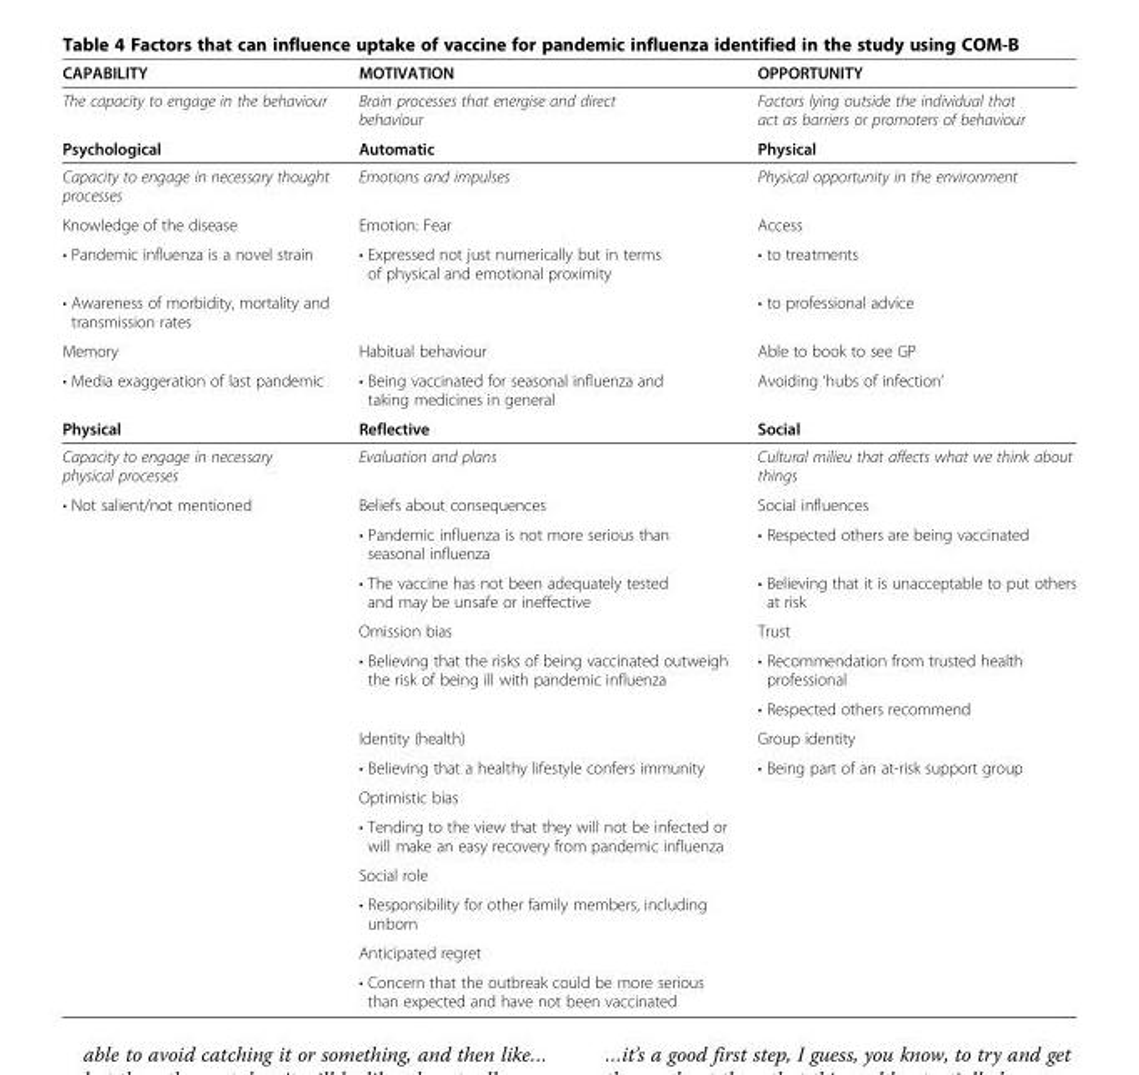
<table><thead><tr><td>CAPABILITY</td><td>MOTIVATION</td><td>OPPORTUNITY</td></tr></thead><tbody><tr><td>The capacity to engage in the behaviour</td><td>Brain processes that energise and direct behaviour</td><td>Factors lying outside the individual that act as barriers or promoters of behaviour</td></tr><tr><td>Psychological</td><td>Automatic</td><td>Physical</td></tr><tr><td>Capacity to engage in necessary thought processes</td><td>Emotions and impulses</td><td>Physical opportunity in the environment</td></tr><tr><td>Knowledge of the disease</td><td>Emotion: Fear</td><td>Access</td></tr><tr><td>• Pandemic influenza is a novel strain</td><td>• Expressed not just numerically but in terms of physical and emotional proximity</td><td>• to treatments</td></tr><tr><td>• Awareness of morbidity, mortality and transmission rates</td><td></td><td>• to professional advice</td></tr><tr><td>Memory</td><td>Habitual behaviour</td><td>Able to book to see GP</td></tr><tr><td>• Media exaggeration of last pandemic</td><td>• Being vaccinated for seasonal influenza and taking medicines in general</td><td>Avoiding ‘hubs of infection’</td></tr><tr><td>Physical</td><td>Reflective</td><td>Social</td></tr><tr><td>Capacity to engage in necessary physical processes</td><td>Evaluation and plans</td><td>Cultural milieu that affects what we think about things</td></tr><tr><td rowspan="14">• Not salient/not mentioned</td><td>Beliefs about consequences</td><td>Social influences</td></tr><tr><td>• Pandemic influenza is not more serious than seasonal influenza</td><td>• Respected others are being vaccinated</td></tr><tr><td>• The vaccine has not been adequately tested and may be unsafe or ineffective</td><td>• Believing that it is unacceptable to put others at risk</td></tr><tr><td>Omission bias</td><td>Trust</td></tr><tr><td>• Believing that the risks of being vaccinated outweigh the risk of being ill with pandemic influenza</td><td>• Recommendation from trusted health professional</td></tr><tr><td></td><td>• Respected others recommend</td></tr><tr><td>Identity (health)</td><td>Group identity</td></tr><tr><td>• Believing that a healthy lifestyle confers immunity</td><td>• Being part of an at-risk support group</td></tr><tr><td>Optimistic bias</td><td></td></tr><tr><td>• Tending to the view that they will not be infected or will make an easy recovery from pandemic influenza</td><td></td></tr><tr><td>Social role</td><td></td></tr><tr><td>• Responsibility for other family members, including unborn</td><td></td></tr><tr><td>Anticipated regret</td><td></td></tr><tr><td>• Concern that the outbreak could be more serious than expected and have not been vaccinated</td><td></td></tr></tbody></table>